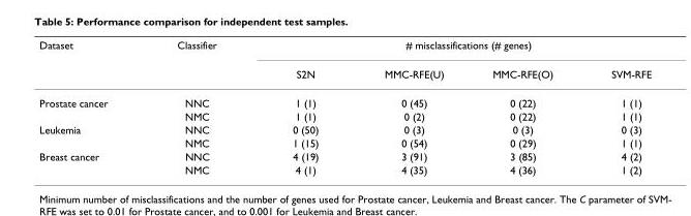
<table><thead><tr><td rowspan="2">Dataset</td><td rowspan="2">Classifier</td><td colspan="4"># misclassifications (# genes)</td></tr><tr><td>S2N</td><td>MMC-RFE(U)</td><td>MMC-RFE(O)</td><td>SVM-RFE</td></tr></thead><tbody><tr><td rowspan="2">Prostate cancer</td><td>NNC</td><td>1 (1)</td><td>0 (45)</td><td>0 (22)</td><td>1 (1)</td></tr><tr><td>NMC</td><td>1 (1)</td><td>0 (2)</td><td>0 (22)</td><td>1 (1)</td></tr><tr><td rowspan="2">Leukemia</td><td>NNC</td><td>0 (50)</td><td>0 (3)</td><td>0 (3)</td><td>0 (3)</td></tr><tr><td>NMC</td><td>1 (15)</td><td>0 (54)</td><td>0 (29)</td><td>1 (1)</td></tr><tr><td rowspan="2">Breast cancer</td><td>NNC</td><td>4 (19)</td><td>3 (91)</td><td>3 (85)</td><td>4 (2)</td></tr><tr><td>NMC</td><td>4 (1)</td><td>4 (35)</td><td>4 (36)</td><td>1 (2)</td></tr></tbody></table>